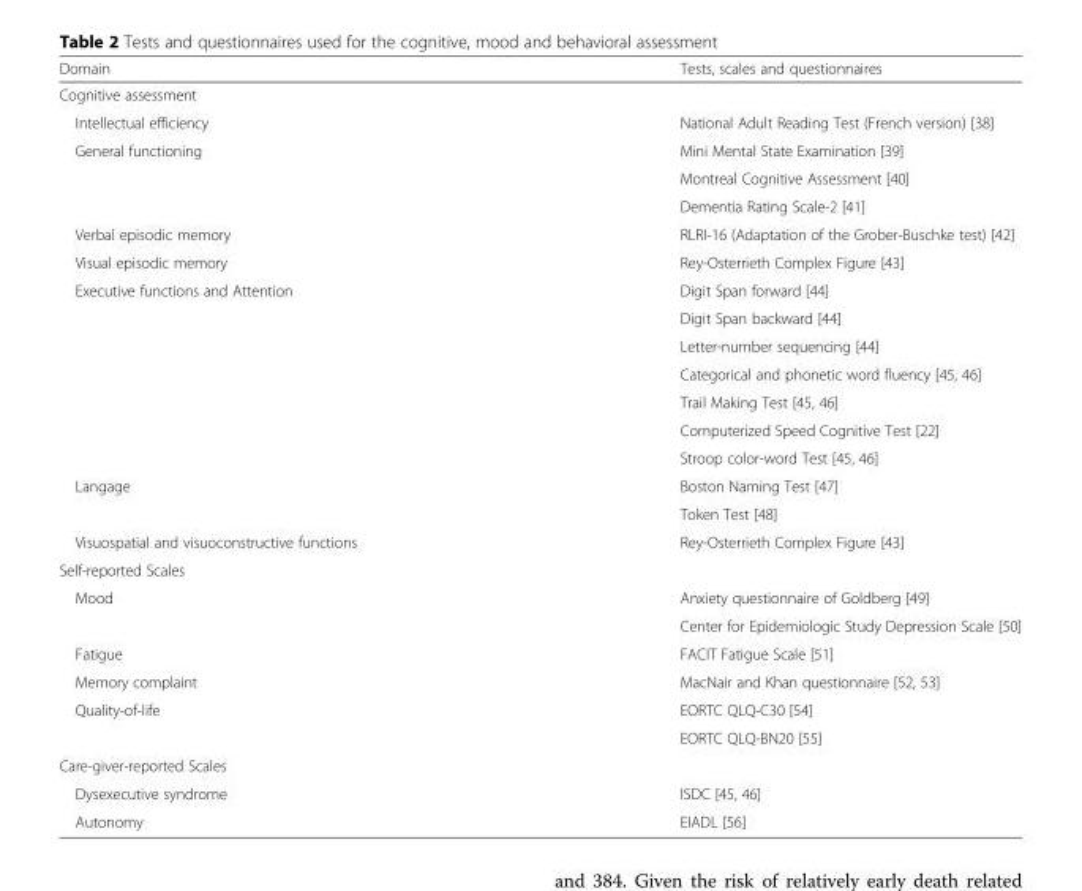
<table><thead><tr><td>Domain</td><td>Tests, scales and questionnaires</td></tr></thead><tbody><tr><td colspan="2">Cognitive assessment</td></tr><tr><td>Intellectual efficiency</td><td>National Adult Reading Test (French version) [38]</td></tr><tr><td rowspan="3">General functioning</td><td>Mini Mental State Examination [39]</td></tr><tr><td>Montreal Cognitive Assessment [40]</td></tr><tr><td>Dementia Rating Scale-2 [41]</td></tr><tr><td>Verbal episodic memory</td><td>RLRI-16 (Adaptation of the Grober-Buschke test) [42]</td></tr><tr><td>Visual episodic memory</td><td>Rey-Osterrieth Complex Figure [43]</td></tr><tr><td rowspan="7">Executive functions and Attention</td><td>Digit Span forward [44]</td></tr><tr><td>Digit Span backward [44]</td></tr><tr><td>Letter-number sequencing [44]</td></tr><tr><td>Categorical and phonetic word fluency [45, 46]</td></tr><tr><td>Trail Making Test [45, 46]</td></tr><tr><td>Computerized Speed Cognitive Test [22]</td></tr><tr><td>Stroop color-word Test [45, 46]</td></tr><tr><td rowspan="2">Langage</td><td>Boston Naming Test [47]</td></tr><tr><td>Token Test [48]</td></tr><tr><td>Visuospatial and visuoconstructive functions</td><td>Rey-Osterrieth Complex Figure [43]</td></tr><tr><td colspan="2">Self-reported Scales</td></tr><tr><td rowspan="2">Mood</td><td>Anxiety questionnaire of Goldberg [49]</td></tr><tr><td>Center for Epidemiologic Study Depression Scale [50]</td></tr><tr><td>Fatigue</td><td>FACIT Fatigue Scale [51]</td></tr><tr><td>Memory complaint</td><td>MacNair and Khan questionnaire [52, 53]</td></tr><tr><td rowspan="2">Quality-of-life</td><td>EORTC QLQ-C30 [54]</td></tr><tr><td>EORTC QLQ-BN20 [55]</td></tr><tr><td colspan="2">Care-giver-reported Scales</td></tr><tr><td>Dysexecutive syndrome</td><td>ISDC [45, 46]</td></tr><tr><td>Autonomy</td><td>EIADL [56]</td></tr></tbody></table>